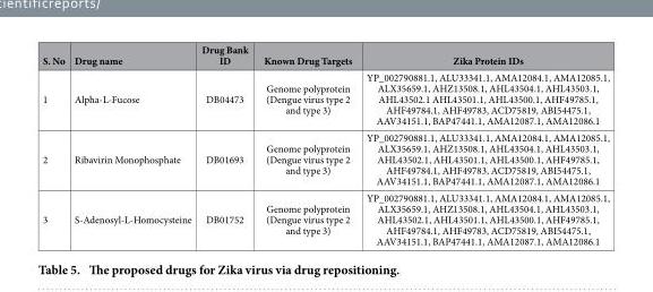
<table><thead><tr><td>S. No</td><td>Drug name</td><td>Drug Bank ID</td><td>Known Drug Targets</td><td>Zika Protein IDs</td></tr></thead><tbody><tr><td>1</td><td>Alpha-L-Fucose</td><td>DB04473</td><td>Genome polyprotein (Dengue virus type 2 and type 3)</td><td>YP_002790881.1, ALU33341.1, AMA12084.1, AMA12085.1, ALX35659.1, AHZ13508.1, AHL43504.1, AHL43503.1, AHL43502.1 AHL43501.1, AHL43500.1, AHF49785.1, AHF49784.1, AHF49783, ACD75819, ABI54475.1, AAV34151.1, BAP47441.1, AMA12087.1, AMA12086.1</td></tr><tr><td>2</td><td>Ribavirin Monophosphate</td><td>DB01693</td><td>Genome polyprotein (Dengue virus type 2 and type 3)</td><td>YP_002790881.1, ALU33341.1, AMA12084.1, AMA12085.1, ALX35659.1, AHZ13508.1, AHL43504.1, AHL43503.1, AHL43502.1, AHL43501.1, AHL43500.1, AHF49785.1, AHF49784.1, AHF49783, ACD75819, ABI54475.1, AAV34151.1, BAP47441.1, AMA12087.1, AMA12086.1</td></tr><tr><td>3</td><td>S-Adenosyl-L-Homocysteine</td><td>DB01752</td><td>Genome polyprotein (Dengue virus type 2 and type 3)</td><td>YP_002790881.1, ALU33341.1, AMA12084.1, AMA12085.1, ALX35659.1, AHZ13508.1, AHL43504.1, AHL43503.1, AHL43502.1, AHL43501.1, AHL43500.1, AHF49785.1, AHF49784.1, AHF49783, ACD75819, ABI54475.1, AAV34151.1, BAP47441.1, AMA12087.1, AMA12086.1</td></tr></tbody></table>